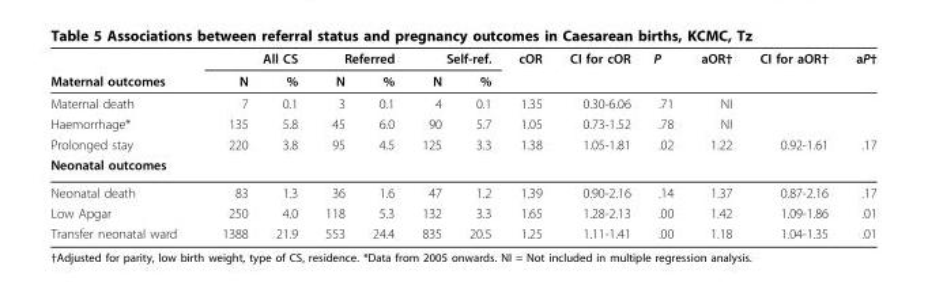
<table><thead><tr><td rowspan="2">Maternal outcomes</td><td colspan="2">All CS</td><td colspan="2">Referred</td><td colspan="2">Self-ref.</td><td rowspan="2">cOR</td><td rowspan="2">CI for cOR</td><td rowspan="2">P</td><td rowspan="2">aOR†</td><td rowspan="2">CI for aOR†</td><td rowspan="2">aP†</td></tr><tr><td>N</td><td>%</td><td>N</td><td>%</td><td>N</td><td>%</td></tr></thead><tbody><tr><td>Maternal death</td><td>7</td><td>0.1</td><td>3</td><td>0.1</td><td>4</td><td>0.1</td><td>1.35</td><td>0.30-6.06</td><td>.71</td><td>NI</td><td></td><td></td></tr><tr><td>Haemorrhage*</td><td>135</td><td>5.8</td><td>45</td><td>6.0</td><td>90</td><td>5.7</td><td>1.05</td><td>0.73-1.52</td><td>.78</td><td>NI</td><td></td><td></td></tr><tr><td>Prolonged stay</td><td>220</td><td>3.8</td><td>95</td><td>4.5</td><td>125</td><td>3.3</td><td>1.38</td><td>1.05-1.81</td><td>.02</td><td>1.22</td><td>0.92-1.61</td><td>.17</td></tr><tr><td colspan="13">Neonatal outcomes</td></tr><tr><td>Neonatal death</td><td>83</td><td>1.3</td><td>36</td><td>1.6</td><td>47</td><td>1.2</td><td>1.39</td><td>0.90-2.16</td><td>.14</td><td>1.37</td><td>0.87-2.16</td><td>.17</td></tr><tr><td>Low Apgar</td><td>250</td><td>4.0</td><td>118</td><td>5.3</td><td>132</td><td>3.3</td><td>1.65</td><td>1.28-2.13</td><td>.00</td><td>1.42</td><td>1.09-1.86</td><td>.01</td></tr><tr><td>Transfer neonatal ward</td><td>1388</td><td>21.9</td><td>553</td><td>24.4</td><td>835</td><td>20.5</td><td>1.25</td><td>1.11-1.41</td><td>.00</td><td>1.18</td><td>1.04-1.35</td><td>.01</td></tr></tbody></table>